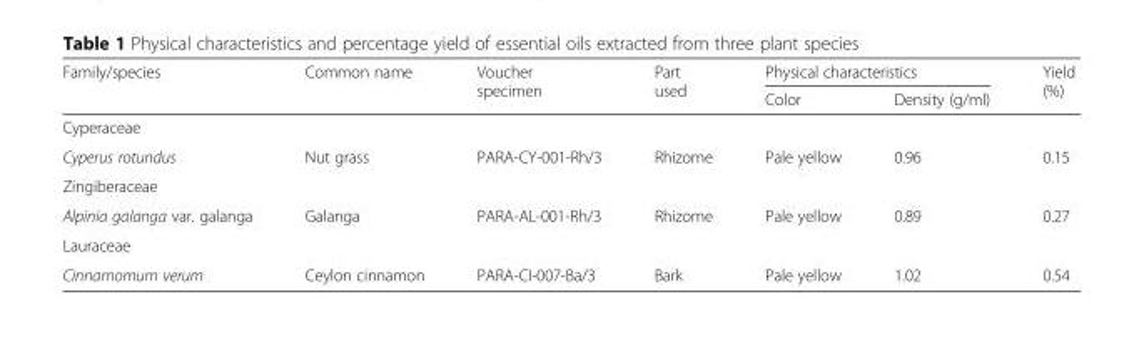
<table><thead><tr><td rowspan="2">Family/species</td><td rowspan="2">Common name</td><td rowspan="2">Voucher specimen</td><td rowspan="2">Part used</td><td colspan="2">Physical characteristics</td><td rowspan="2">Yield (%)</td></tr><tr><td>Color</td><td>Density (g/ml)</td></tr></thead><tbody><tr><td colspan="7">Cyperaceae</td></tr><tr><td>Cyperus rotundus</td><td>Nut grass</td><td>PARA-CY-001-Rh/3</td><td>Rhizome</td><td>Pale yellow</td><td>0.96</td><td>0.15</td></tr><tr><td colspan="7">Zingiberaceae</td></tr><tr><td>Alpinia galanga var. galanga</td><td>Galanga</td><td>PARA-AL-001-Rh/3</td><td>Rhizome</td><td>Pale yellow</td><td>0.89</td><td>0.27</td></tr><tr><td colspan="7">Lauraceae</td></tr><tr><td>Cinnamomum verum</td><td>Ceylon cinnamon</td><td>PARA-CI-007-Ba/3</td><td>Bark</td><td>Pale yellow</td><td>1.02</td><td>0.54</td></tr></tbody></table>